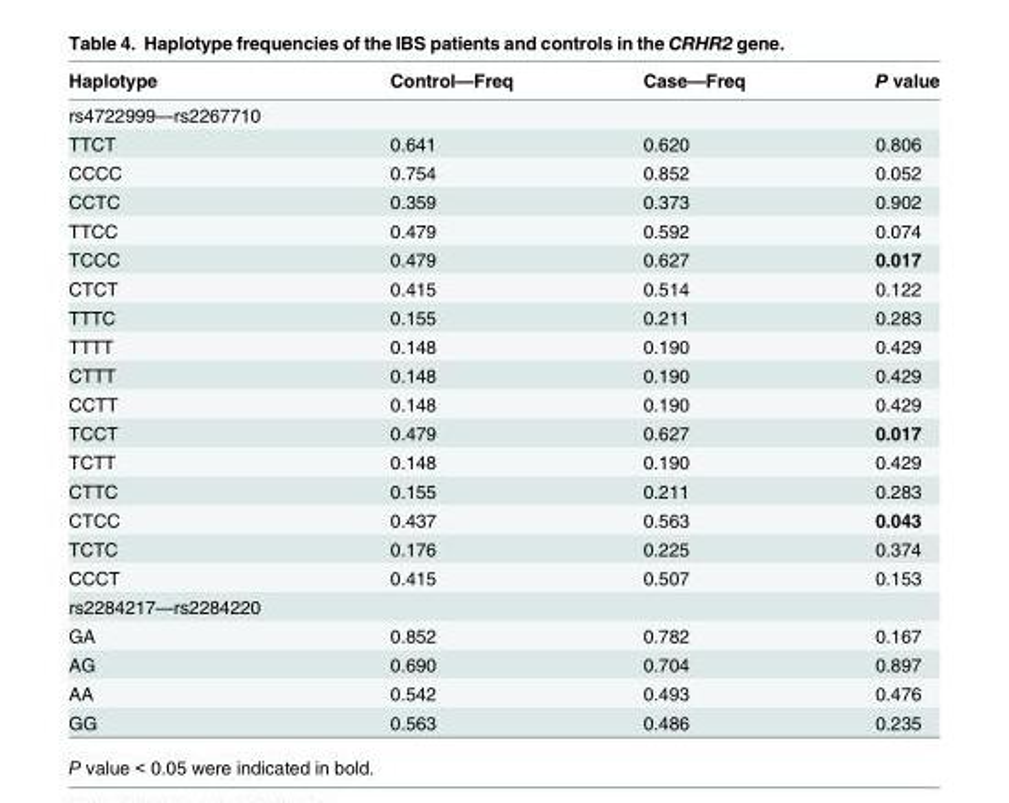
<table><thead><tr><td>Haplotype</td><td>Control—Freq</td><td>Case—Freq</td><td>P value</td></tr></thead><tbody><tr><td colspan="4">rs4722999—rs2267710</td></tr><tr><td>TTCT</td><td>0.641</td><td>0.620</td><td>0.806</td></tr><tr><td>CCCC</td><td>0.754</td><td>0.852</td><td>0.052</td></tr><tr><td>CCTC</td><td>0.359</td><td>0.373</td><td>0.902</td></tr><tr><td>TTCC</td><td>0.479</td><td>0.592</td><td>0.074</td></tr><tr><td>TCCC</td><td>0.479</td><td>0.627</td><td>0.017</td></tr><tr><td>CTCT</td><td>0.415</td><td>0.514</td><td>0.122</td></tr><tr><td>TTTC</td><td>0.155</td><td>0.211</td><td>0.283</td></tr><tr><td>TTTT</td><td>0.148</td><td>0.190</td><td>0.429</td></tr><tr><td>CTTT</td><td>0.148</td><td>0.190</td><td>0.429</td></tr><tr><td>CCTT</td><td>0.148</td><td>0.190</td><td>0.429</td></tr><tr><td>TCCT</td><td>0.479</td><td>0.627</td><td>0.017</td></tr><tr><td>TCTT</td><td>0.148</td><td>0.190</td><td>0.429</td></tr><tr><td>CTTC</td><td>0.155</td><td>0.211</td><td>0.283</td></tr><tr><td>CTCC</td><td>0.437</td><td>0.563</td><td>0.043</td></tr><tr><td>TCTC</td><td>0.176</td><td>0.225</td><td>0.374</td></tr><tr><td>CCCT</td><td>0.415</td><td>0.507</td><td>0.153</td></tr><tr><td colspan="4">rs2284217—rs2284220</td></tr><tr><td>GA</td><td>0.852</td><td>0.782</td><td>0.167</td></tr><tr><td>AG</td><td>0.690</td><td>0.704</td><td>0.897</td></tr><tr><td>AA</td><td>0.542</td><td>0.493</td><td>0.476</td></tr><tr><td>GG</td><td>0.563</td><td>0.486</td><td>0.235</td></tr></tbody></table>